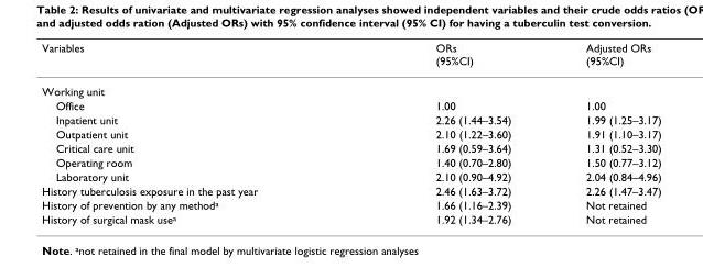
<table><thead><tr><td>Variables</td><td>ORs (95%CI)</td><td>Adjusted ORs (95%CI)</td></tr></thead><tbody><tr><td colspan="3">Working unit</td></tr><tr><td>Office</td><td>1.00</td><td>1.00</td></tr><tr><td>Inpatient unit</td><td>2.26 (1.44–3.54)</td><td>1.99 (1.25–3.17)</td></tr><tr><td>Outpatient unit</td><td>2.10 (1.22–3.60)</td><td>1.91 (1.10–3.17)</td></tr><tr><td>Critical care unit</td><td>1.69 (0.59–3.64)</td><td>1.31 (0.52–3.30)</td></tr><tr><td>Operating room</td><td>1.40 (0.70–2.80)</td><td>1.50 (0.77–3.12)</td></tr><tr><td>Laboratory unit</td><td>2.10 (0.90–4.92)</td><td>2.04 (0.84–4.96)</td></tr><tr><td>History tuberculosis exposure in the past year</td><td>2.46 (1.63–3.72)</td><td>2.26 (1.47–3.47)</td></tr><tr><td>History of prevention by any method<sup>a</sup></td><td>1.66 (1.16–2.39)</td><td>Not retained</td></tr><tr><td>History of surgical mask use<sup>a</sup></td><td>1.92 (1.34–2.76)</td><td>Not retained</td></tr></tbody></table>